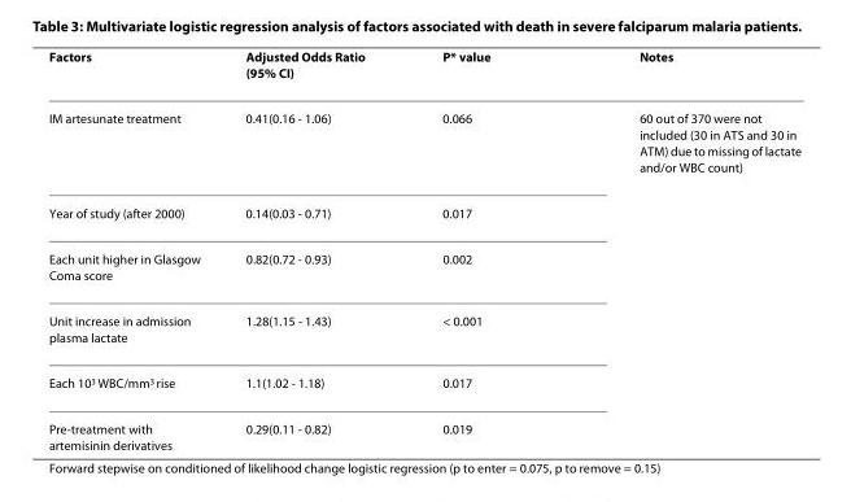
<table><thead><tr><td>Factors</td><td>Adjusted Odds Ratio (95% CI)</td><td>P* value</td><td>Notes</td></tr></thead><tbody><tr><td>IM artesunate treatment</td><td>0.41(0.16 - 1.06)</td><td>0.066</td><td>60 out of 370 were not included (30 in ATS and 30 in ATM) due to missing of lactate and/or WBC count)</td></tr><tr><td>Year of study (after 2000)</td><td>0.14(0.03 - 0.71)</td><td>0.017</td><td></td></tr><tr><td>Each unit higher in Glasgow Coma score</td><td>0.82(0.72 - 0.93)</td><td>0.002</td><td></td></tr><tr><td>Unit increase in admission plasma lactate</td><td>1.28(1.15 - 1.43)</td><td>&lt; 0.001</td><td></td></tr><tr><td>Each 10<sup>3</sup> WBC/mm<sup>3</sup> rise</td><td>1.1(1.02 - 1.18)</td><td>0.017</td><td></td></tr><tr><td>Pre-treatment with artemisinin derivatives</td><td>0.29(0.11 - 0.82)</td><td>0.019</td><td></td></tr></tbody></table>